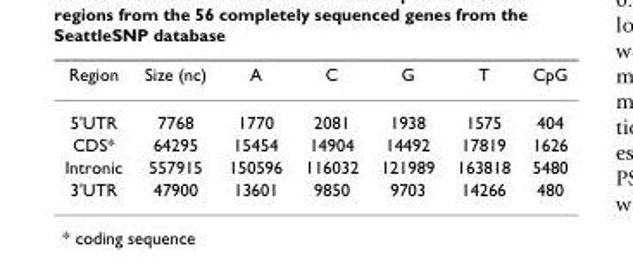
<table><thead><tr><td>Region</td><td>Size (nc)</td><td>A</td><td>C</td><td>G</td><td>T</td><td>CpG</td></tr></thead><tbody><tr><td>5&#x27;UTR</td><td>7768</td><td>1770</td><td>2081</td><td>1938</td><td>1575</td><td>404</td></tr><tr><td>CDS*</td><td>64295</td><td>15454</td><td>14904</td><td>14492</td><td>17819</td><td>1626</td></tr><tr><td>Intronic</td><td>557915</td><td>150596</td><td>116032</td><td>121989</td><td>163818</td><td>5480</td></tr><tr><td>3&#x27;UTR</td><td>47900</td><td>13601</td><td>9850</td><td>9703</td><td>14266</td><td>480</td></tr></tbody></table>